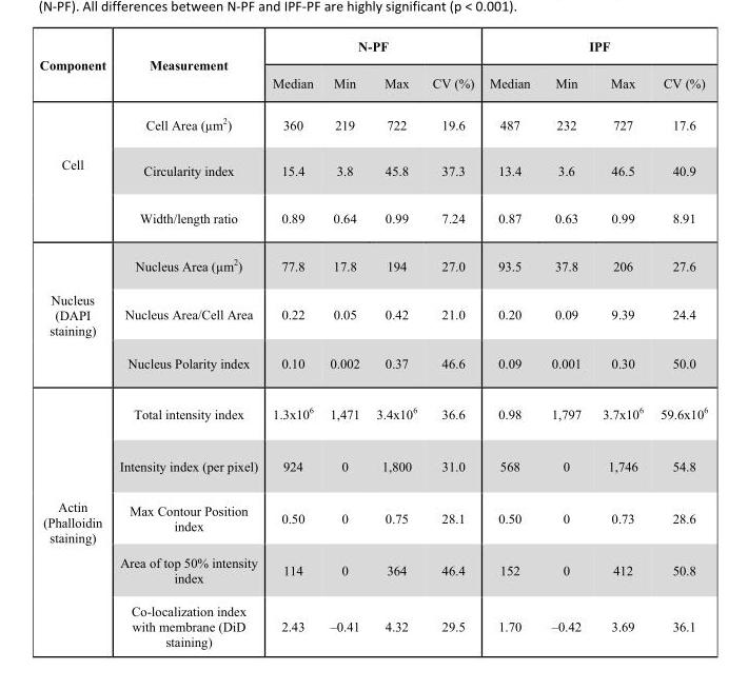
<table><thead><tr><td rowspan="2">Component</td><td rowspan="2">Measurement</td><td colspan="4">N-PF</td><td colspan="4">IPF</td></tr><tr><td>Median</td><td>Min</td><td>Max</td><td>CV (%)</td><td>Median</td><td>Min</td><td>Max</td><td>CV (%)</td></tr></thead><tbody><tr><td rowspan="3">Cell</td><td>Cell Area (µm<sup>2</sup>)</td><td>360</td><td>219</td><td>722</td><td>19.6</td><td>487</td><td>232</td><td>727</td><td>17.6</td></tr><tr><td>Circularity index</td><td>15.4</td><td>3.8</td><td>45.8</td><td>37.3</td><td>13.4</td><td>3.6</td><td>46.5</td><td>40.9</td></tr><tr><td>Width/length ratio</td><td>0.89</td><td>0.64</td><td>0.99</td><td>7.24</td><td>0.87</td><td>0.63</td><td>0.99</td><td>8.91</td></tr><tr><td rowspan="3">Nucleus (DAPI staining)</td><td>Nucleus Area (µm<sup>2</sup>)</td><td>77.8</td><td>17.8</td><td>194</td><td>27.0</td><td>93.5</td><td>37.8</td><td>206</td><td>27.6</td></tr><tr><td>Nucleus Area/Cell Area</td><td>0.22</td><td>0.05</td><td>0.42</td><td>21.0</td><td>0.20</td><td>0.09</td><td>9.39</td><td>24.4</td></tr><tr><td>Nucleus Polarity index</td><td>0.10</td><td>0.002</td><td>0.37</td><td>46.6</td><td>0.09</td><td>0.001</td><td>0.30</td><td>50.0</td></tr><tr><td rowspan="5">Actin (Phalloidin staining)</td><td>Total intensity index</td><td>1.3x106</td><td>1,471</td><td>3.4x106</td><td>36.6</td><td>0.98</td><td>1,797</td><td>3.7x106</td><td>59.6x106</td></tr><tr><td>Intensity index (per pixel)</td><td>924</td><td>0</td><td>1,800</td><td>31.0</td><td>568</td><td>0</td><td>1,746</td><td>54.8</td></tr><tr><td>Max Contour Position index</td><td>0.50</td><td>0</td><td>0.75</td><td>28.1</td><td>0.50</td><td>0</td><td>0.73</td><td>28.6</td></tr><tr><td>Area of top 50% intensity index</td><td>114</td><td>0</td><td>364</td><td>46.4</td><td>152</td><td>0</td><td>412</td><td>50.8</td></tr><tr><td>Co-localization index with membrane (DiD staining)</td><td>2.43</td><td>–0.41</td><td>4.32</td><td>29.5</td><td>1.70</td><td>–0.42</td><td>3.69</td><td>36.1</td></tr></tbody></table>